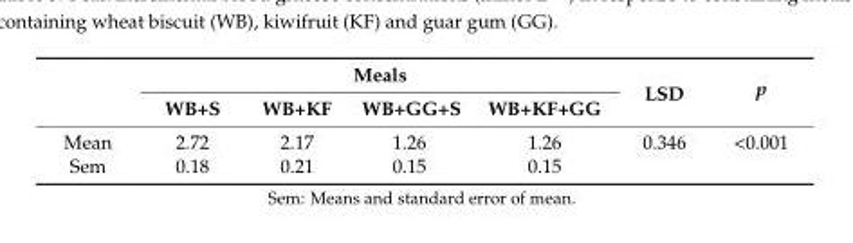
<table><thead><tr><td rowspan="2"></td><td colspan="4">Meals</td><td rowspan="2">LSD</td><td rowspan="2">p</td></tr><tr><td>WB+S</td><td>WB+KF</td><td>WB+GG+S</td><td>WB+KF+GG</td></tr></thead><tbody><tr><td>Mean</td><td>2.72</td><td>2.17</td><td>1.26</td><td>1.26</td><td>0.346</td><td>&lt;0.001</td></tr><tr><td>Sem</td><td>0.18</td><td>0.21</td><td>0.15</td><td>0.15</td><td></td><td></td></tr></tbody></table>